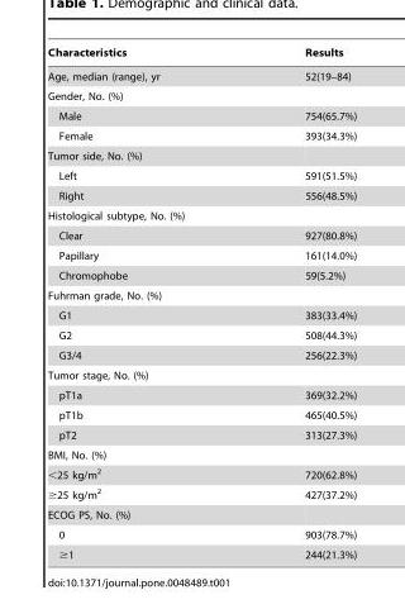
<table><thead><tr><td>Characteristics</td><td>Results</td></tr></thead><tbody><tr><td>Age, median (range), yr</td><td>52(19–84)</td></tr><tr><td colspan="2">Gender, No. (%)</td></tr><tr><td>Male</td><td>754(65.7%)</td></tr><tr><td>Female</td><td>393(34.3%)</td></tr><tr><td colspan="2">Tumor side, No. (%)</td></tr><tr><td>Left</td><td>591(51.5%)</td></tr><tr><td>Right</td><td>556(48.5%)</td></tr><tr><td colspan="2">Histological subtype, No. (%)</td></tr><tr><td>Clear</td><td>927(80.8%)</td></tr><tr><td>Papillary</td><td>161(14.0%)</td></tr><tr><td>Chromophobe</td><td>59(5.2%)</td></tr><tr><td colspan="2">Fuhrman grade, No. (%)</td></tr><tr><td>G1</td><td>383(33.4%)</td></tr><tr><td>G2</td><td>508(44.3%)</td></tr><tr><td>G3/4</td><td>256(22.3%)</td></tr><tr><td colspan="2">Tumor stage, No. (%)</td></tr><tr><td>pT1a</td><td>369(32.2%)</td></tr><tr><td>pT1b</td><td>465(40.5%)</td></tr><tr><td>pT2</td><td>313(27.3%)</td></tr><tr><td colspan="2">BMI, No. (%)</td></tr><tr><td>&lt;25 kg/m<sup>2</sup></td><td>720(62.8%)</td></tr><tr><td>≥25 kg/m<sup>2</sup></td><td>427(37.2%)</td></tr><tr><td colspan="2">ECOG PS, No. (%)</td></tr><tr><td>0</td><td>903(78.7%)</td></tr><tr><td>≥1</td><td>244(21.3%)</td></tr></tbody></table>